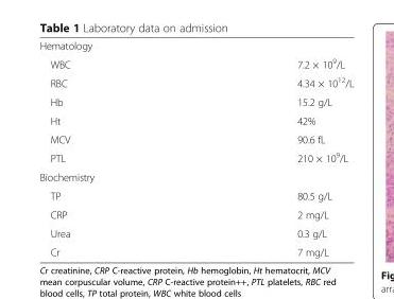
<table><tbody><tr><td colspan="2">Hematology</td></tr><tr><td>WBC</td><td>7.2 × 10<sup>9</sup>/L</td></tr><tr><td>RBC</td><td>4.34 × 10<sup>12</sup>/L</td></tr><tr><td>Hb</td><td>15.2 g/L</td></tr><tr><td>Ht</td><td>42%</td></tr><tr><td>MCV</td><td>90.6 fL</td></tr><tr><td>PTL</td><td>210 × 10<sup>9</sup>/L</td></tr><tr><td colspan="2">Biochemistry</td></tr><tr><td>TP</td><td>80.5 g/L</td></tr><tr><td>CRP</td><td>2 mg/L</td></tr><tr><td>Urea</td><td>0.3 g/L</td></tr><tr><td>Cr</td><td>7 mg/L</td></tr></tbody></table>